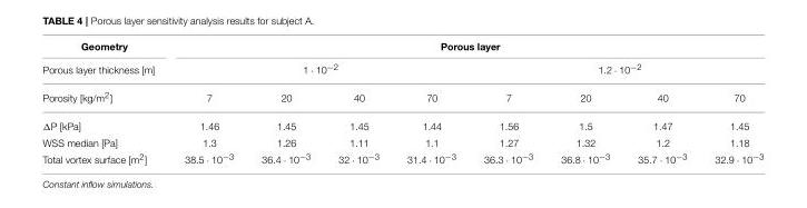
<table><thead><tr><td rowspan="3">Geometry Porous layer thickness [m] Porosity [kg/m<sup>2</sup>]</td><td colspan="8">Porous layer</td></tr><tr><td colspan="4">1 · 10<sup>−2</sup></td><td colspan="4">1.2 · 10<sup>−2</sup></td></tr><tr><td>7</td><td>20</td><td>40</td><td>70</td><td>7</td><td>20</td><td>40</td><td>70</td></tr></thead><tbody><tr><td>ΔP [kPa]</td><td>1.46</td><td>1.45</td><td>1.45</td><td>1.44</td><td>1.56</td><td>1.5</td><td>1.47</td><td>1.45</td></tr><tr><td>WSS median [Pa]</td><td>1.3</td><td>1.26</td><td>1.11</td><td>1.1</td><td>1.27</td><td>1.32</td><td>1.2</td><td>1.18</td></tr><tr><td>Total vortex surface [m<sup>2</sup>]</td><td>38.5 · 10<sup>−3</sup></td><td>36.4 · 10<sup>−3</sup></td><td>32 · 10<sup>−3</sup></td><td>31.4 · 10<sup>−3</sup></td><td>36.3 · 10<sup>−3</sup></td><td>36.8 · 10<sup>−3</sup></td><td>35.7 · 10<sup>−3</sup></td><td>32.9 · 10<sup>−3</sup></td></tr></tbody></table>